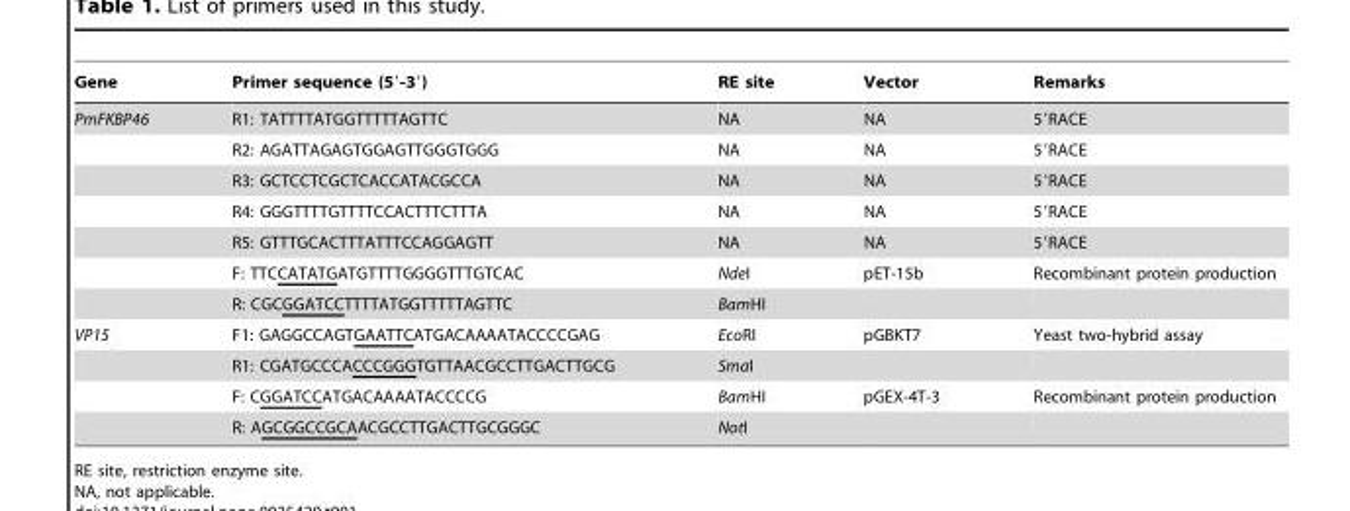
<table><thead><tr><td>Gene</td><td>Primer sequence (5′-3′)</td><td>RE site</td><td>Vector</td><td>Remarks</td></tr></thead><tbody><tr><td rowspan="7">PmFKBP46</td><td>R1: TATTTTATGGTTTTTAGTTC</td><td>NA</td><td>NA</td><td>5′RACE</td></tr><tr><td>R2: AGATTAGAGTGGAGTTGGGTGGG</td><td>NA</td><td>NA</td><td>5′RACE</td></tr><tr><td>R3: GCTCCTCGCTCACCATACGCCA</td><td>NA</td><td>NA</td><td>5′RACE</td></tr><tr><td>R4: GGGTTTTGTTTTCCACTTTCTTTA</td><td>NA</td><td>NA</td><td>5′RACE</td></tr><tr><td>R5: GTTTGCACTTTATTTCCAGGAGTT</td><td>NA</td><td>NA</td><td>5′RACE</td></tr><tr><td>F: TTCCATATGATGTTTTGGGGTTTGTCAC</td><td>NdeI</td><td>pET-15b</td><td>Recombinant protein production</td></tr><tr><td>R: CGCGGATCCTTTTATGGTTTTTAGTTC</td><td>BamHI</td><td></td><td></td></tr><tr><td rowspan="4">VP15</td><td>F1: GAGGCCAGTGAATTCATGACAAAATACCCCGAG</td><td>EcoRI</td><td>pGBKT7</td><td>Yeast two-hybrid assay</td></tr><tr><td>R1: CGATGCCCACCCGGGTGTTAACGCCTTGACTTGCG</td><td>SmaI</td><td></td><td></td></tr><tr><td>F: CGGATCCATGACAAAATACCCCG</td><td>BamHI</td><td>pGEX-4T-3</td><td>Recombinant protein production</td></tr><tr><td>R: AGCGGCCGCAACGCCTTGACTTGCGGGC</td><td>NotI</td><td></td><td></td></tr></tbody></table>